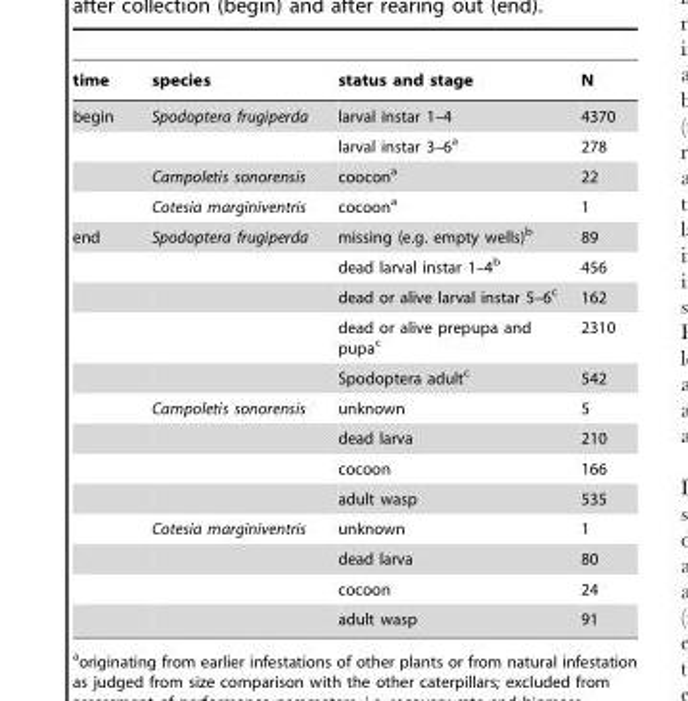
<table><thead><tr><td>time</td><td>species</td><td>status and stage</td><td>N</td></tr></thead><tbody><tr><td rowspan="4">begin</td><td>Spodoptera frugiperda</td><td>larval instar 1–4</td><td>4370</td></tr><tr><td></td><td>larval instar 3–6<sup>a</sup></td><td>278</td></tr><tr><td>Campoletis sonorensis</td><td>coocon<sup>a</sup></td><td>22</td></tr><tr><td>Cotesia marginiventris</td><td>cocoon<sup>a</sup></td><td>1</td></tr><tr><td rowspan="13">end</td><td>Spodoptera frugiperda</td><td>missing (e.g. empty wells)<sup>b</sup></td><td>89</td></tr><tr><td></td><td>dead larval instar 1–4<sup>b</sup></td><td>456</td></tr><tr><td></td><td>dead or alive larval instar 5–6<sup>c</sup></td><td>162</td></tr><tr><td></td><td>dead or alive prepupa and pupa<sup>c</sup></td><td>2310</td></tr><tr><td></td><td>Spodoptera adult<sup>c</sup></td><td>542</td></tr><tr><td>Campoletis sonorensis</td><td>unknown</td><td>5</td></tr><tr><td></td><td>dead larva</td><td>210</td></tr><tr><td></td><td>cocoon</td><td>166</td></tr><tr><td></td><td>adult wasp</td><td>535</td></tr><tr><td>Cotesia marginiventris</td><td>unknown</td><td>1</td></tr><tr><td></td><td>dead larva</td><td>80</td></tr><tr><td></td><td>cocoon</td><td>24</td></tr><tr><td></td><td>adult wasp</td><td>91</td></tr></tbody></table>